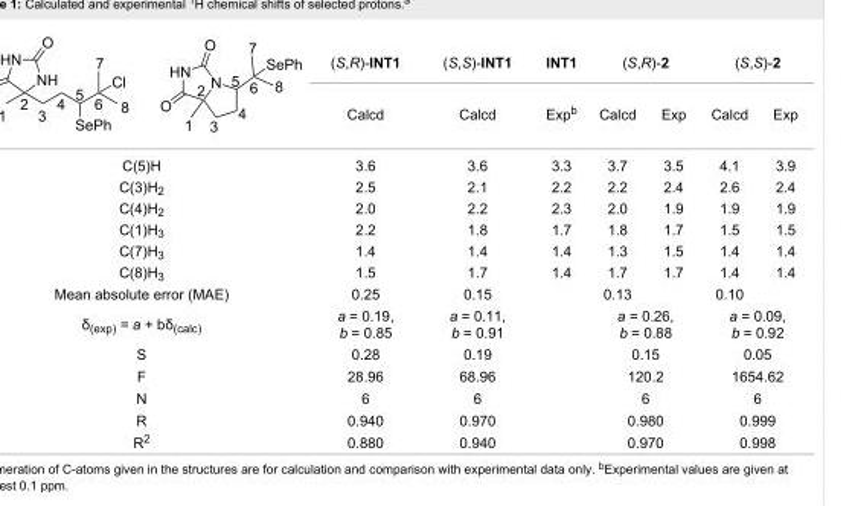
<table><thead><tr><td rowspan="2"></td><td rowspan="2">(S,R)-INT1 Calcd</td><td rowspan="2">(S,S)-INT1 Calcd</td><td rowspan="2">INT1 Expb</td><td colspan="2">(S,R)-2</td><td colspan="2">(S,S)-2</td></tr><tr><td>Calcd</td><td>Exp</td><td>Calcd</td><td>Exp</td></tr></thead><tbody><tr><td>C(5)H</td><td>3.6</td><td>3.6</td><td>3.3</td><td>3.7</td><td>3.5</td><td>4.1</td><td>3.9</td></tr><tr><td>C(3)H<sub>2</sub></td><td>2.5</td><td>2.1</td><td>2.2</td><td>2.2</td><td>2.4</td><td>2.6</td><td>2.4</td></tr><tr><td>C(4)H<sub>2</sub></td><td>2.0</td><td>2.2</td><td>2.3</td><td>2.0</td><td>1.9</td><td>1.9</td><td>1.9</td></tr><tr><td>C(1)H<sub>3</sub></td><td>2.2</td><td>1.8</td><td>1.7</td><td>1.8</td><td>1.7</td><td>1.5</td><td>1.5</td></tr><tr><td>C(7)H<sub>3</sub></td><td>1.4</td><td>1.4</td><td>1.4</td><td>1.3</td><td>1.5</td><td>1.4</td><td>1.4</td></tr><tr><td>C(8)H<sub>3</sub></td><td>1.5</td><td>1.7</td><td>1.4</td><td>1.7</td><td>1.7</td><td>1.4</td><td>1.4</td></tr><tr><td>Mean absolute error (MAE)</td><td>0.25</td><td>0.15</td><td></td><td>0.13</td><td></td><td>0.10</td><td></td></tr><tr><td>δ<sub>(exp)</sub> = a + bδ<sub>(calc)</sub></td><td>a = 0.19, b = 0.85</td><td>a = 0.11, b = 0.91</td><td></td><td colspan="2">a = 0.26, b = 0.88</td><td colspan="2">a = 0.09, b = 0.92</td></tr><tr><td>S</td><td>0.28</td><td>0.19</td><td></td><td colspan="2">0.15</td><td colspan="2">0.05</td></tr><tr><td>F</td><td>28.96</td><td>68.96</td><td></td><td colspan="2">120.2</td><td colspan="2">1654.62</td></tr><tr><td>N</td><td>6</td><td>6</td><td></td><td colspan="2">6</td><td colspan="2">6</td></tr><tr><td>R</td><td>0.940</td><td>0.970</td><td></td><td colspan="2">0.980</td><td colspan="2">0.999</td></tr><tr><td>R<sup>2</sup></td><td>0.880</td><td>0.940</td><td></td><td colspan="2">0.970</td><td colspan="2">0.998</td></tr></tbody></table>